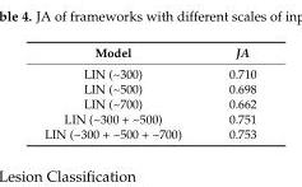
<table><thead><tr><td>Model</td><td>JA</td></tr></thead><tbody><tr><td>LIN (~300)</td><td>0.710</td></tr><tr><td>LIN (~500)</td><td>0.698</td></tr><tr><td>LIN (~700)</td><td>0.662</td></tr><tr><td>LIN (~300 + ~500)</td><td>0.751</td></tr><tr><td>LIN (~300 + ~500 + ~700)</td><td>0.753</td></tr></tbody></table>